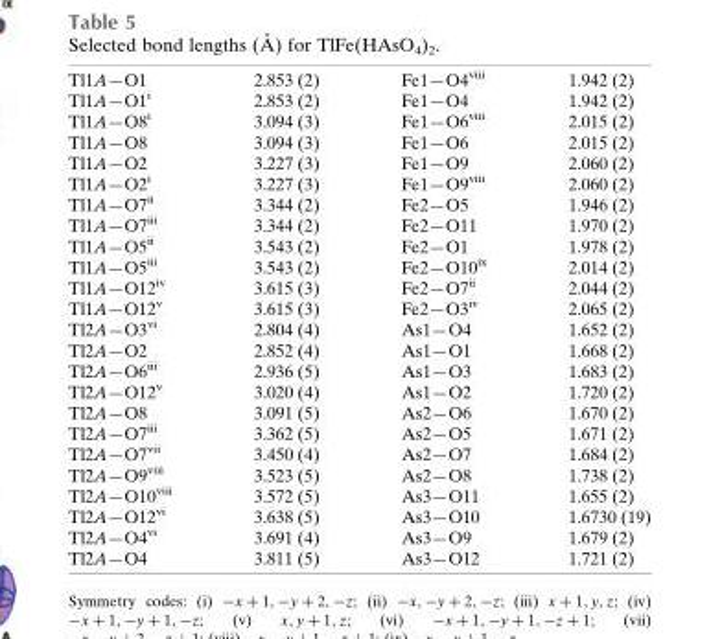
<table><tbody><tr><td>Tl1A—O1</td><td>2.853 (2)</td><td>Fe1—O4<sup>viii</sup></td><td>1.942 (2)</td></tr><tr><td>Tl1A—O1<sup>i</sup></td><td>2.853 (2)</td><td>Fe1—O4</td><td>1.942 (2)</td></tr><tr><td>Tl1A—O8<sup>i</sup></td><td>3.094 (3)</td><td>Fe1—O6<sup>viii</sup></td><td>2.015 (2)</td></tr><tr><td>Tl1A—O8</td><td>3.094 (3)</td><td>Fe1—O6</td><td>2.015 (2)</td></tr><tr><td>Tl1A—O2</td><td>3.227 (3)</td><td>Fe1—O9</td><td>2.060 (2)</td></tr><tr><td>Tl1A—O2<sup>i</sup></td><td>3.227 (3)</td><td>Fe1—O9<sup>viii</sup></td><td>2.060 (2)</td></tr><tr><td>Tl1A—O7<sup>ii</sup></td><td>3.344 (2)</td><td>Fe2—O5</td><td>1.946 (2)</td></tr><tr><td>Tl1A—O7<sup>iii</sup></td><td>3.344 (2)</td><td>Fe2—O11</td><td>1.970 (2)</td></tr><tr><td>Tl1A—O5<sup>ii</sup></td><td>3.543 (2)</td><td>Fe2—O1</td><td>1.978 (2)</td></tr><tr><td>Tl1A—O5<sup>iii</sup></td><td>3.543 (2)</td><td>Fe2—O10<sup>ix</sup></td><td>2.014 (2)</td></tr><tr><td>Tl1A—O12<sup>iv</sup></td><td>3.615 (3)</td><td>Fe2—O7<sup>ii</sup></td><td>2.044 (2)</td></tr><tr><td>Tl1A—O12<sup>v</sup></td><td>3.615 (3)</td><td>Fe2—O3<sup>iv</sup></td><td>2.065 (2)</td></tr><tr><td>Tl2A—O3<sup>vi</sup></td><td>2.804 (4)</td><td>As1—O4</td><td>1.652 (2)</td></tr><tr><td>Tl2A—O2</td><td>2.852 (4)</td><td>As1—O1</td><td>1.668 (2)</td></tr><tr><td>Tl2A—O6<sup>iii</sup></td><td>2.936 (5)</td><td>As1—O3</td><td>1.683 (2)</td></tr><tr><td>Tl2A—O12<sup>v</sup></td><td>3.020 (4)</td><td>As1—O2</td><td>1.720 (2)</td></tr><tr><td>Tl2A—O8</td><td>3.091 (5)</td><td>As2—O6</td><td>1.670 (2)</td></tr><tr><td>Tl2A—O7<sup>iii</sup></td><td>3.362 (5)</td><td>As2—O5</td><td>1.671 (2)</td></tr><tr><td>Tl2A—O7<sup>vii</sup></td><td>3.450 (4)</td><td>As2—O7</td><td>1.684 (2)</td></tr><tr><td>Tl2A—O9<sup>viii</sup></td><td>3.523 (5)</td><td>As2—O8</td><td>1.738 (2)</td></tr><tr><td>Tl2A—O10<sup>viii</sup></td><td>3.572 (5)</td><td>As3—O11</td><td>1.655 (2)</td></tr><tr><td>Tl2A—O12<sup>vi</sup></td><td>3.638 (5)</td><td>As3—O10</td><td>1.6730 (19)</td></tr><tr><td>Tl2A—O4<sup>vi</sup></td><td>3.691 (4)</td><td>As3—O9</td><td>1.679 (2)</td></tr><tr><td>Tl2A—O4</td><td>3.811 (5)</td><td>As3—O12</td><td>1.721 (2)</td></tr></tbody></table>